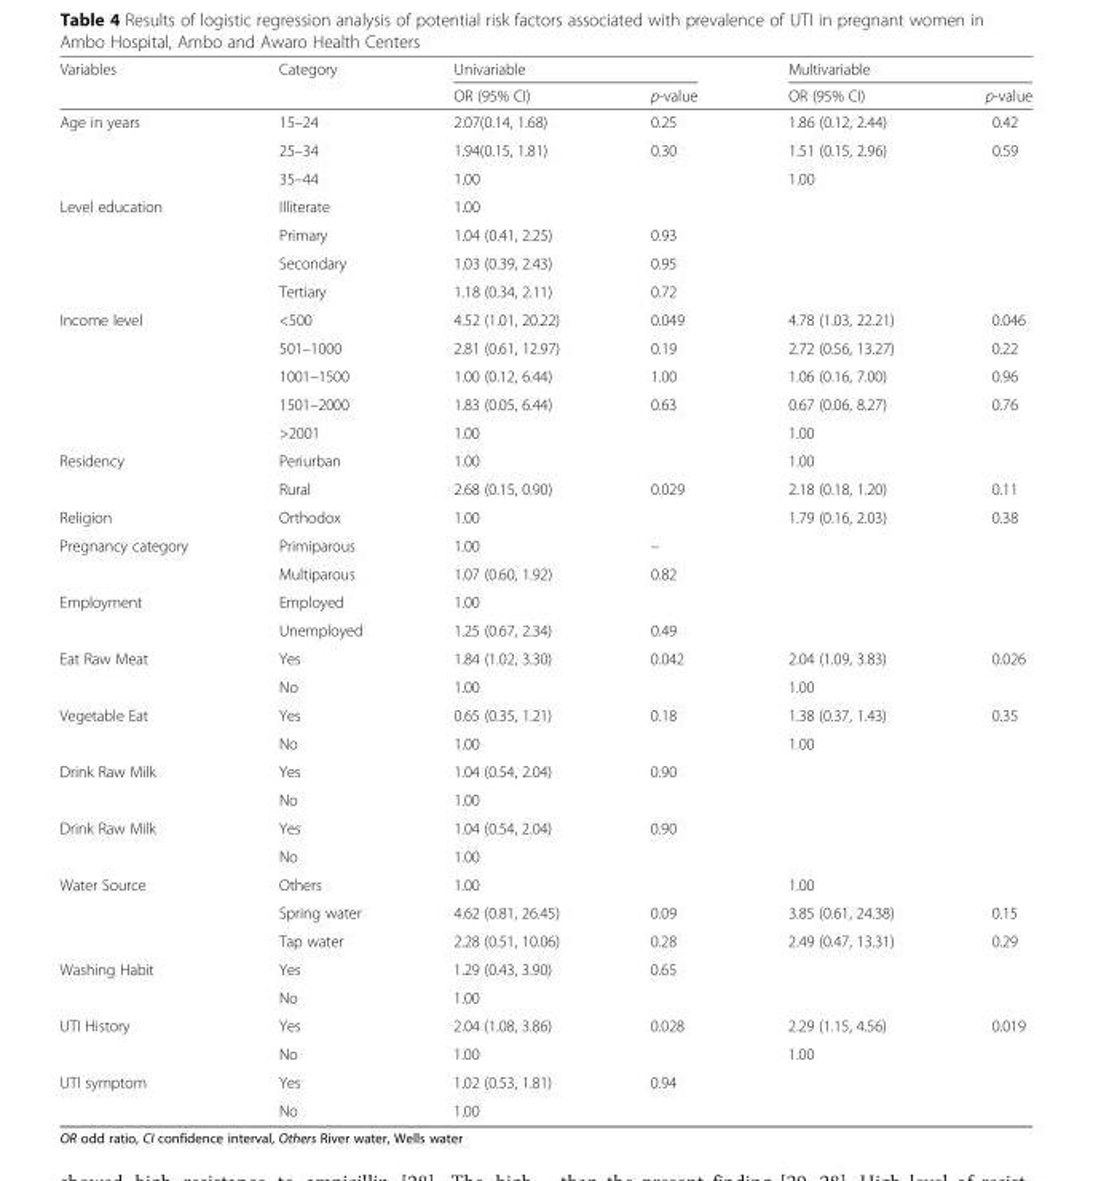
<table><thead><tr><td rowspan="2">Variables</td><td rowspan="2">Category</td><td colspan="2">Univariable</td><td colspan="2">Multivariable</td></tr><tr><td>OR (95% CI)</td><td>p-value</td><td>OR (95% CI)</td><td>p-value</td></tr></thead><tbody><tr><td rowspan="3">Age in years</td><td>15–24</td><td>2.07(0.14, 1.68)</td><td>0.25</td><td>1.86 (0.12, 2.44)</td><td>0.42</td></tr><tr><td>25–34</td><td>1.94(0.15, 1.81)</td><td>0.30</td><td>1.51 (0.15, 2.96)</td><td>0.59</td></tr><tr><td>35–44</td><td>1.00</td><td></td><td>1.00</td><td></td></tr><tr><td rowspan="4">Level education</td><td>Illiterate</td><td>1.00</td><td></td><td></td><td></td></tr><tr><td>Primary</td><td>1.04 (0.41, 2.25)</td><td>0.93</td><td></td><td></td></tr><tr><td>Secondary</td><td>1.03 (0.39, 2.43)</td><td>0.95</td><td></td><td></td></tr><tr><td>Tertiary</td><td>1.18 (0.34, 2.11)</td><td>0.72</td><td></td><td></td></tr><tr><td rowspan="5">Income level</td><td>&lt;500</td><td>4.52 (1.01, 20.22)</td><td>0.049</td><td>4.78 (1.03, 22.21)</td><td>0.046</td></tr><tr><td>501–1000</td><td>2.81 (0.61, 12.97)</td><td>0.19</td><td>2.72 (0.56, 13.27)</td><td>0.22</td></tr><tr><td>1001–1500</td><td>1.00 (0.12, 6.44)</td><td>1.00</td><td>1.06 (0.16, 7.00)</td><td>0.96</td></tr><tr><td>1501–2000</td><td>1.83 (0.05, 6.44)</td><td>0.63</td><td>0.67 (0.06, 8.27)</td><td>0.76</td></tr><tr><td>&gt;2001</td><td>1.00</td><td></td><td>1.00</td><td></td></tr><tr><td rowspan="2">Residency</td><td>Periurban</td><td>1.00</td><td></td><td>1.00</td><td></td></tr><tr><td>Rural</td><td>2.68 (0.15, 0.90)</td><td>0.029</td><td>2.18 (0.18, 1.20)</td><td>0.11</td></tr><tr><td>Religion</td><td>Orthodox</td><td>1.00</td><td></td><td>1.79 (0.16, 2.03)</td><td>0.38</td></tr><tr><td rowspan="2">Pregnancy category</td><td>Primiparous</td><td>1.00</td><td>–</td><td></td><td></td></tr><tr><td>Multiparous</td><td>1.07 (0.60, 1.92)</td><td>0.82</td><td></td><td></td></tr><tr><td rowspan="2">Employment</td><td>Employed</td><td>1.00</td><td></td><td></td><td></td></tr><tr><td>Unemployed</td><td>1.25 (0.67, 2.34)</td><td>0.49</td><td></td><td></td></tr><tr><td rowspan="2">Eat Raw Meat</td><td>Yes</td><td>1.84 (1.02, 3.30)</td><td>0.042</td><td>2.04 (1.09, 3.83)</td><td>0.026</td></tr><tr><td>No</td><td>1.00</td><td></td><td>1.00</td><td></td></tr><tr><td rowspan="2">Vegetable Eat</td><td>Yes</td><td>0.65 (0.35, 1.21)</td><td>0.18</td><td>1.38 (0.37, 1.43)</td><td>0.35</td></tr><tr><td>No</td><td>1.00</td><td></td><td>1.00</td><td></td></tr><tr><td rowspan="2">Drink Raw Milk</td><td>Yes</td><td>1.04 (0.54, 2.04)</td><td>0.90</td><td></td><td></td></tr><tr><td>No</td><td>1.00</td><td></td><td></td><td></td></tr><tr><td rowspan="2">Drink Raw Milk</td><td>Yes</td><td>1.04 (0.54, 2.04)</td><td>0.90</td><td></td><td></td></tr><tr><td>No</td><td>1.00</td><td></td><td></td><td></td></tr><tr><td rowspan="3">Water Source</td><td>Others</td><td>1.00</td><td></td><td>1.00</td><td></td></tr><tr><td>Spring water</td><td>4.62 (0.81, 26.45)</td><td>0.09</td><td>3.85 (0.61, 24.38)</td><td>0.15</td></tr><tr><td>Tap water</td><td>2.28 (0.51, 10.06)</td><td>0.28</td><td>2.49 (0.47, 13.31)</td><td>0.29</td></tr><tr><td rowspan="2">Washing Habit</td><td>Yes</td><td>1.29 (0.43, 3.90)</td><td>0.65</td><td></td><td></td></tr><tr><td>No</td><td>1.00</td><td></td><td></td><td></td></tr><tr><td rowspan="2">UTI History</td><td>Yes</td><td>2.04 (1.08, 3.86)</td><td>0.028</td><td>2.29 (1.15, 4.56)</td><td>0.019</td></tr><tr><td>No</td><td>1.00</td><td></td><td>1.00</td><td></td></tr><tr><td rowspan="2">UTI symptom</td><td>Yes</td><td>1.02 (0.53, 1.81)</td><td>0.94</td><td></td><td></td></tr><tr><td>No</td><td>1.00</td><td></td><td></td><td></td></tr></tbody></table>